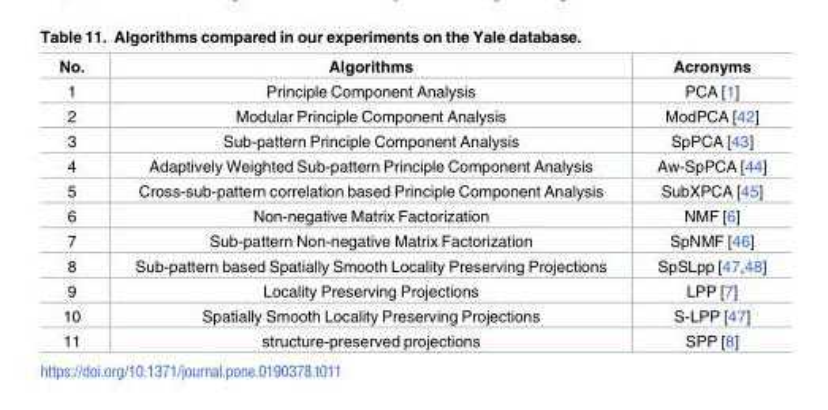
<table><thead><tr><td>No.</td><td>Algorithms</td><td>Acronyms</td></tr></thead><tbody><tr><td>1</td><td>Principle Component Analysis</td><td>PCA [1]</td></tr><tr><td>2</td><td>Modular Principle Component Analysis</td><td>ModPCA [42]</td></tr><tr><td>3</td><td>Sub-pattern Principle Component Analysis</td><td>SpPCA [43]</td></tr><tr><td>4</td><td>Adaptively Weighted Sub-pattern Principle Component Analysis</td><td>Aw-SpPCA [44]</td></tr><tr><td>5</td><td>Cross-sub-pattern correlation based Principle Component Analysis</td><td>SubXPCA [45]</td></tr><tr><td>6</td><td>Non-negative Matrix Factorization</td><td>NMF [6]</td></tr><tr><td>7</td><td>Sub-pattern Non-negative Matrix Factorization</td><td>SpNMF [46]</td></tr><tr><td>8</td><td>Sub-pattern based Spatially Smooth Locality Preserving Projections</td><td>SpSLpp [47,48]</td></tr><tr><td>9</td><td>Locality Preserving Projections</td><td>LPP [7]</td></tr><tr><td>10</td><td>Spatially Smooth Locality Preserving Projections</td><td>S-LPP [47]</td></tr><tr><td>11</td><td>structure-preserved projections</td><td>SPP [8]</td></tr></tbody></table>